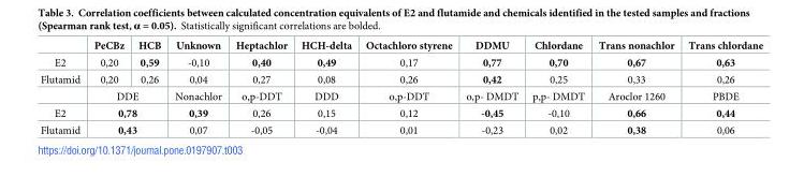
<table><thead><tr><td></td><td>PeCBz</td><td>HCB</td><td>Unknown</td><td>Heptachlor</td><td>HCH-delta</td><td>Octachloro styrene</td><td>DDMU</td><td>Chlordane</td><td>Trans nonachlor</td><td>Trans chlordane</td></tr></thead><tbody><tr><td>E2</td><td>0,20</td><td>0,59</td><td>-0,10</td><td>0,40</td><td>0,49</td><td>0,17</td><td>0,77</td><td>0,70</td><td>0,67</td><td>0,63</td></tr><tr><td rowspan="2">Flutamid</td><td>0,20</td><td>0,26</td><td>0,04</td><td>0,27</td><td>0,08</td><td>0,26</td><td>0,42</td><td>0,25</td><td>0,33</td><td>0,26</td></tr><tr><td colspan="2">DDE</td><td>Nonachlor</td><td>o,p-DDT</td><td>DDD</td><td>o,p-DDT</td><td>o,p- DMDT</td><td>p,p- DMDT</td><td>Aroclor 1260</td><td>PBDE</td></tr><tr><td>E2</td><td colspan="2">0,78</td><td>0,39</td><td>0,26</td><td>0,15</td><td>0,12</td><td>-0,45</td><td>-0,10</td><td>0,66</td><td>0,44</td></tr><tr><td>Flutamid</td><td colspan="2">0,43</td><td>0,07</td><td>-0,05</td><td>-0,04</td><td>0,01</td><td>-0,23</td><td>0,02</td><td>0,38</td><td>0,06</td></tr></tbody></table>